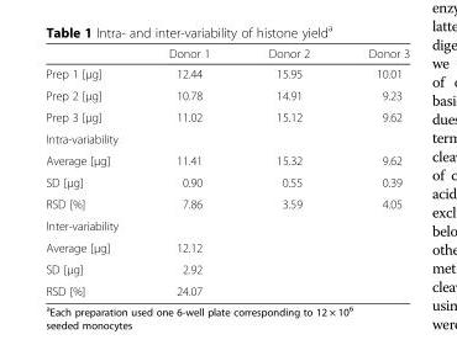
<table><thead><tr><td></td><td>Donor 1</td><td>Donor 2</td><td>Donor 3</td></tr></thead><tbody><tr><td>Prep 1 [μg]</td><td>12.44</td><td>15.95</td><td>10.01</td></tr><tr><td>Prep 2 [μg]</td><td>10.78</td><td>14.91</td><td>9.23</td></tr><tr><td>Prep 3 [μg]</td><td>11.02</td><td>15.12</td><td>9.62</td></tr><tr><td colspan="4">Intra-variability</td></tr><tr><td>Average [μg]</td><td>11.41</td><td>15.32</td><td>9.62</td></tr><tr><td>SD [μg]</td><td>0.90</td><td>0.55</td><td>0.39</td></tr><tr><td>RSD [%]</td><td>7.86</td><td>3.59</td><td>4.05</td></tr><tr><td colspan="4">Inter-variability</td></tr><tr><td>Average [μg]</td><td colspan="3">12.12</td></tr><tr><td>SD [μg]</td><td colspan="3">2.92</td></tr><tr><td>RSD [%]</td><td colspan="3">24.07</td></tr></tbody></table>